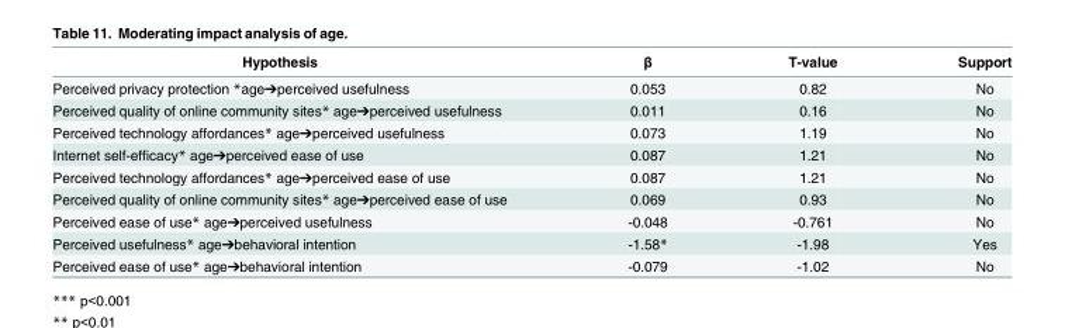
<table><thead><tr><td>Hypothesis</td><td>β</td><td>T-value</td><td>Support</td></tr></thead><tbody><tr><td>Perceived privacy protection *age➔perceived usefulness</td><td>0.053</td><td>0.82</td><td>No</td></tr><tr><td>Perceived quality of online community sites* age➔perceived usefulness</td><td>0.011</td><td>0.16</td><td>No</td></tr><tr><td>Perceived technology affordances* age➔perceived usefulness</td><td>0.073</td><td>1.19</td><td>No</td></tr><tr><td>Internet self-efficacy* age➔perceived ease of use</td><td>0.087</td><td>1.21</td><td>No</td></tr><tr><td>Perceived technology affordances* age➔perceived ease of use</td><td>0.087</td><td>1.21</td><td>No</td></tr><tr><td>Perceived quality of online community sites* age➔perceived ease of use</td><td>0.069</td><td>0.93</td><td>No</td></tr><tr><td>Perceived ease of use* age➔perceived usefulness</td><td>-0.048</td><td>-0.761</td><td>No</td></tr><tr><td>Perceived usefulness* age➔behavioral intention</td><td>-1.58*</td><td>-1.98</td><td>Yes</td></tr><tr><td>Perceived ease of use* age➔behavioral intention</td><td>-0.079</td><td>-1.02</td><td>No</td></tr></tbody></table>